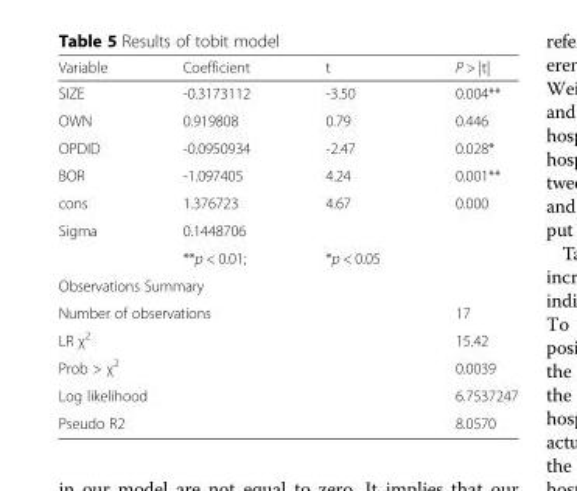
<table><thead><tr><td>Variable</td><td>Coefficient</td><td>t</td><td>P &gt; |t|</td></tr></thead><tbody><tr><td>SIZE</td><td>-0.3173112</td><td>-3.50</td><td>0.004**</td></tr><tr><td>OWN</td><td>0.919808</td><td>0.79</td><td>0.446</td></tr><tr><td>OPDID</td><td>-0.0950934</td><td>-2.47</td><td>0.028*</td></tr><tr><td>BOR</td><td>-1.097405</td><td>4.24</td><td>0.001**</td></tr><tr><td>cons</td><td>1.376723</td><td>4.67</td><td>0.000</td></tr><tr><td rowspan="2">Sigma</td><td>0.1448706</td><td></td><td></td></tr><tr><td>**p &lt; 0.01;</td><td>*p &lt; 0.05</td><td></td></tr><tr><td colspan="4">Observations Summary</td></tr><tr><td colspan="3">Number of observations</td><td>17</td></tr><tr><td colspan="3">LR χ<sup>2</sup></td><td>15.42</td></tr><tr><td colspan="3">Prob &gt; χ<sup>2</sup></td><td>0.0039</td></tr><tr><td colspan="3">Log likelihood</td><td>6.7537247</td></tr><tr><td colspan="3">Pseudo R2</td><td>8.0570</td></tr></tbody></table>